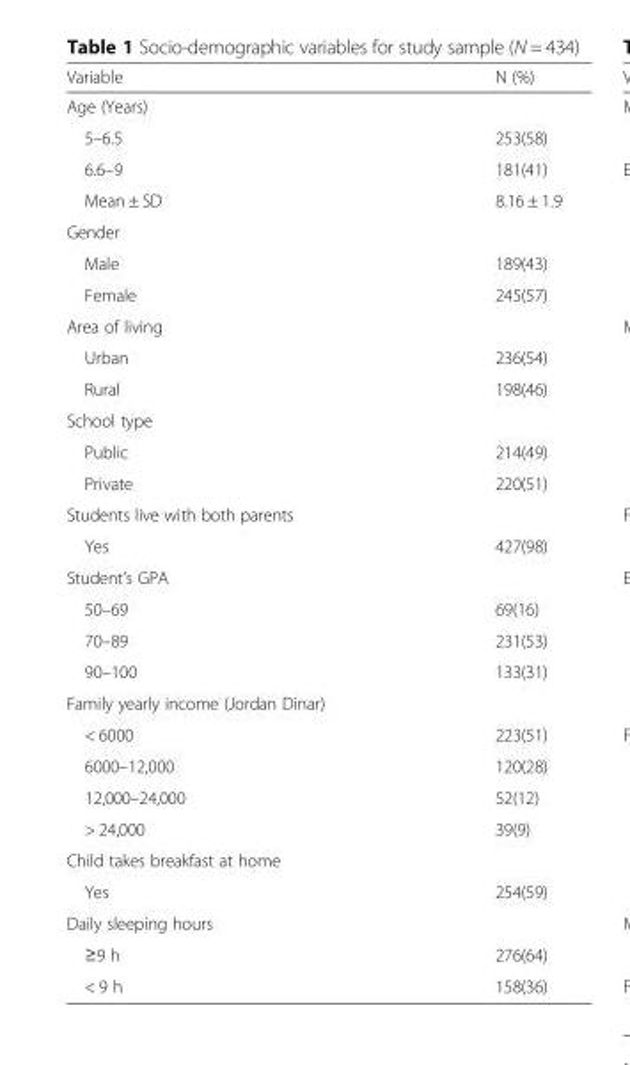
<table><thead><tr><td>Variable</td><td>N (%)</td></tr></thead><tbody><tr><td colspan="2">Age (Years)</td></tr><tr><td>5–6.5</td><td>253(58)</td></tr><tr><td>6.6–9</td><td>181(41)</td></tr><tr><td>Mean ± SD</td><td>8.16 ± 1.9</td></tr><tr><td colspan="2">Gender</td></tr><tr><td>Male</td><td>189(43)</td></tr><tr><td>Female</td><td>245(57)</td></tr><tr><td colspan="2">Area of living</td></tr><tr><td>Urban</td><td>236(54)</td></tr><tr><td>Rural</td><td>198(46)</td></tr><tr><td colspan="2">School type</td></tr><tr><td>Public</td><td>214(49)</td></tr><tr><td>Private</td><td>220(51)</td></tr><tr><td colspan="2">Students live with both parents</td></tr><tr><td>Yes</td><td>427(98)</td></tr><tr><td colspan="2">Student’s GPA</td></tr><tr><td>50–69</td><td>69(16)</td></tr><tr><td>70–89</td><td>231(53)</td></tr><tr><td>90–100</td><td>133(31)</td></tr><tr><td colspan="2">Family yearly income (Jordan Dinar)</td></tr><tr><td>&lt; 6000</td><td>223(51)</td></tr><tr><td>6000–12,000</td><td>120(28)</td></tr><tr><td>12,000–24,000</td><td>52(12)</td></tr><tr><td>&gt; 24,000</td><td>39(9)</td></tr><tr><td colspan="2">Child takes breakfast at home</td></tr><tr><td>Yes</td><td>254(59)</td></tr><tr><td colspan="2">Daily sleeping hours</td></tr><tr><td>≥9 h</td><td>276(64)</td></tr><tr><td>&lt; 9 h</td><td>158(36)</td></tr></tbody></table>